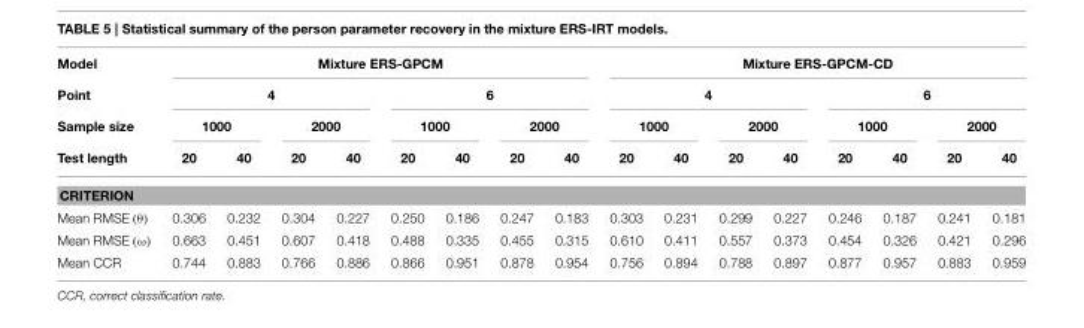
<table><thead><tr><td rowspan="4">Model Point Sample size Test length</td><td colspan="8">Mixture ERS-GPCM</td><td colspan="8">Mixture ERS-GPCM-CD</td></tr><tr><td colspan="4">4</td><td colspan="4">6</td><td colspan="4">4</td><td colspan="4">6</td></tr><tr><td colspan="2">1000</td><td colspan="2">2000</td><td colspan="2">1000</td><td colspan="2">2000</td><td colspan="2">1000</td><td colspan="2">2000</td><td colspan="2">1000</td><td colspan="2">2000</td></tr><tr><td>20</td><td>40</td><td>20</td><td>40</td><td>20</td><td>40</td><td>20</td><td>40</td><td>20</td><td>40</td><td>20</td><td>40</td><td>20</td><td>40</td><td>20</td><td>40</td></tr></thead><tbody><tr><td colspan="17">CRITERION</td></tr><tr><td>Mean RMSE (θ)</td><td>0.306</td><td>0.232</td><td>0.304</td><td>0.227</td><td>0.250</td><td>0.186</td><td>0.247</td><td>0.183</td><td>0.303</td><td>0.231</td><td>0.299</td><td>0.227</td><td>0.246</td><td>0.187</td><td>0.241</td><td>0.181</td></tr><tr><td>Mean RMSE (ω)</td><td>0.663</td><td>0.451</td><td>0.607</td><td>0.418</td><td>0.488</td><td>0.335</td><td>0.455</td><td>0.315</td><td>0.610</td><td>0.411</td><td>0.557</td><td>0.373</td><td>0.454</td><td>0.326</td><td>0.421</td><td>0.296</td></tr><tr><td>Mean CCR</td><td>0.744</td><td>0.883</td><td>0.766</td><td>0.886</td><td>0.866</td><td>0.951</td><td>0.878</td><td>0.954</td><td>0.756</td><td>0.894</td><td>0.788</td><td>0.897</td><td>0.877</td><td>0.957</td><td>0.883</td><td>0.959</td></tr></tbody></table>